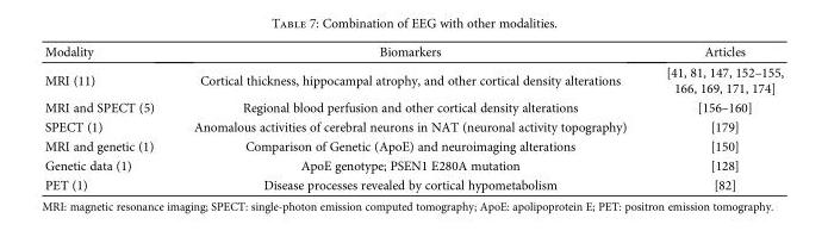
<table><thead><tr><td>Modality</td><td>Biomarkers</td><td>Articles</td></tr></thead><tbody><tr><td>MRI (11)</td><td>Cortical thickness, hippocampal atrophy, and other cortical density alterations</td><td>[41, 81, 147, 152–155, 166, 169, 171, 174]</td></tr><tr><td>MRI and SPECT (5)</td><td>Regional blood perfusion and other cortical density alterations</td><td>[156–160]</td></tr><tr><td>SPECT (1)</td><td>Anomalous activities of cerebral neurons in NAT (neuronal activity topography)</td><td>[179]</td></tr><tr><td>MRI and genetic (1)</td><td>Comparison of Genetic (ApoE) and neuroimaging alterations</td><td>[150]</td></tr><tr><td>Genetic data (1)</td><td>ApoE genotype; PSEN1 E280A mutation</td><td>[128]</td></tr><tr><td>PET (1)</td><td>Disease processes revealed by cortical hypometabolism</td><td>[82]</td></tr></tbody></table>